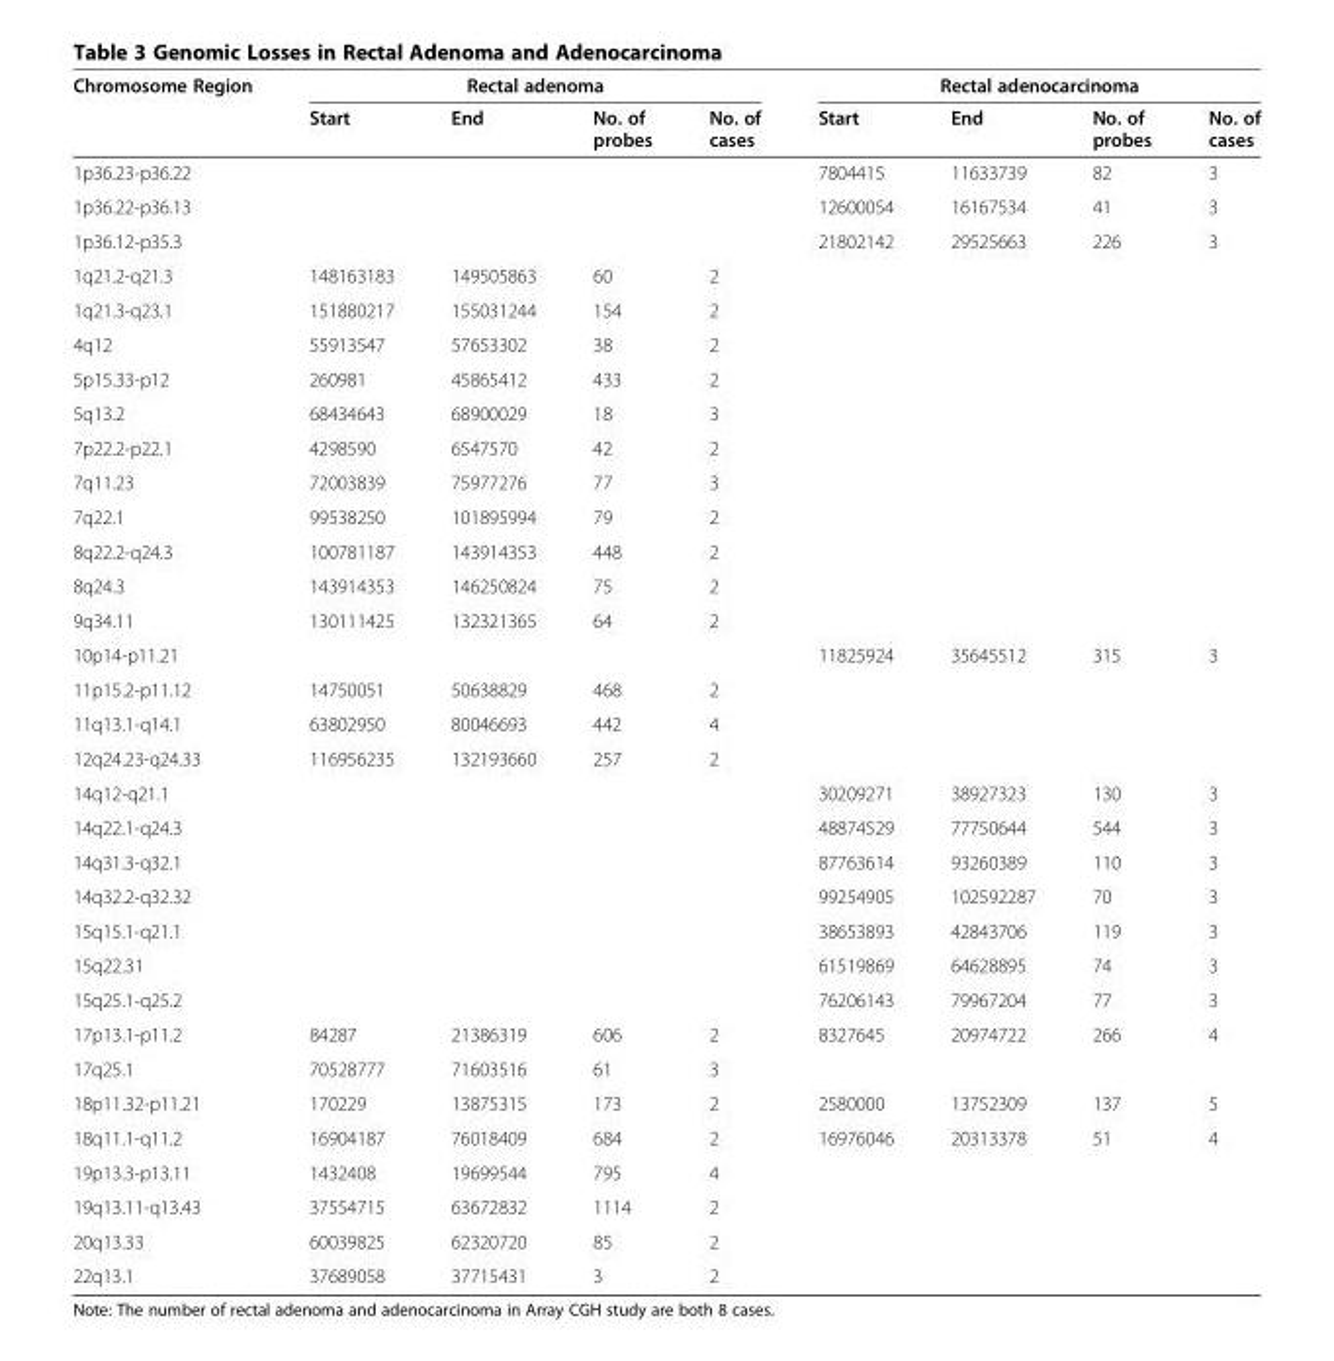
<table><thead><tr><td rowspan="2">Chromosome Region</td><td colspan="4">Rectal adenoma</td><td colspan="4">Rectal adenocarcinoma</td></tr><tr><td>Start</td><td>End</td><td>No. of probes</td><td>No. of cases</td><td>Start</td><td>End</td><td>No. of probes</td><td>No. of cases</td></tr></thead><tbody><tr><td>1p36.23-p36.22</td><td></td><td></td><td></td><td></td><td>7804415</td><td>11633739</td><td>82</td><td>3</td></tr><tr><td>1p36.22-p36.13</td><td></td><td></td><td></td><td></td><td>12600054</td><td>16167534</td><td>41</td><td>3</td></tr><tr><td>1p36.12-p35.3</td><td></td><td></td><td></td><td></td><td>21802142</td><td>29525663</td><td>226</td><td>3</td></tr><tr><td>1q21.2-q21.3</td><td>148163183</td><td>149505863</td><td>60</td><td>2</td><td></td><td></td><td></td><td></td></tr><tr><td>1q21.3-q23.1</td><td>151880217</td><td>155031244</td><td>154</td><td>2</td><td></td><td></td><td></td><td></td></tr><tr><td>4q12</td><td>55913547</td><td>57653302</td><td>38</td><td>2</td><td></td><td></td><td></td><td></td></tr><tr><td>5p15.33-p12</td><td>260981</td><td>45865412</td><td>433</td><td>2</td><td></td><td></td><td></td><td></td></tr><tr><td>5q13.2</td><td>68434643</td><td>68900029</td><td>18</td><td>3</td><td></td><td></td><td></td><td></td></tr><tr><td>7p22.2-p22.1</td><td>4298590</td><td>6547570</td><td>42</td><td>2</td><td></td><td></td><td></td><td></td></tr><tr><td>7q11.23</td><td>72003839</td><td>75977276</td><td>77</td><td>3</td><td></td><td></td><td></td><td></td></tr><tr><td>7q22.1</td><td>99538250</td><td>101895994</td><td>79</td><td>2</td><td></td><td></td><td></td><td></td></tr><tr><td>8q22.2-q24.3</td><td>100781187</td><td>143914353</td><td>448</td><td>2</td><td></td><td></td><td></td><td></td></tr><tr><td>8q24.3</td><td>143914353</td><td>146250824</td><td>75</td><td>2</td><td></td><td></td><td></td><td></td></tr><tr><td>9q34.11</td><td>130111425</td><td>132321365</td><td>64</td><td>2</td><td></td><td></td><td></td><td></td></tr><tr><td>10p14-p11.21</td><td></td><td></td><td></td><td></td><td>11825924</td><td>35645512</td><td>315</td><td>3</td></tr><tr><td>11p15.2-p11.12</td><td>14750051</td><td>50638829</td><td>468</td><td>2</td><td></td><td></td><td></td><td></td></tr><tr><td>11q13.1-q14.1</td><td>63802950</td><td>80046693</td><td>442</td><td>4</td><td></td><td></td><td></td><td></td></tr><tr><td>12q24.23-q24.33</td><td>116956235</td><td>132193660</td><td>257</td><td>2</td><td></td><td></td><td></td><td></td></tr><tr><td>14q12-q21.1</td><td></td><td></td><td></td><td></td><td>30209271</td><td>38927323</td><td>130</td><td>3</td></tr><tr><td>14q22.1-q24.3</td><td></td><td></td><td></td><td></td><td>48874529</td><td>77750644</td><td>544</td><td>3</td></tr><tr><td>14q31.3-q32.1</td><td></td><td></td><td></td><td></td><td>87763614</td><td>93260389</td><td>110</td><td>3</td></tr><tr><td>14q32.2-q32.32</td><td></td><td></td><td></td><td></td><td>99254905</td><td>102592287</td><td>70</td><td>3</td></tr><tr><td>15q15.1-q21.1</td><td></td><td></td><td></td><td></td><td>38653893</td><td>42843706</td><td>119</td><td>3</td></tr><tr><td>15q22.31</td><td></td><td></td><td></td><td></td><td>61519869</td><td>64628895</td><td>74</td><td>3</td></tr><tr><td>15q25.1-q25.2</td><td></td><td></td><td></td><td></td><td>76206143</td><td>79967204</td><td>77</td><td>3</td></tr><tr><td>17p13.1-p11.2</td><td>84287</td><td>21386319</td><td>606</td><td>2</td><td>8327645</td><td>20974722</td><td>266</td><td>4</td></tr><tr><td>17q25.1</td><td>70528777</td><td>71603516</td><td>61</td><td>3</td><td></td><td></td><td></td><td></td></tr><tr><td>18p11.32-p11.21</td><td>170229</td><td>13875315</td><td>173</td><td>2</td><td>2580000</td><td>13752309</td><td>137</td><td>5</td></tr><tr><td>18q11.1-q11.2</td><td>16904187</td><td>76018409</td><td>684</td><td>2</td><td>16976046</td><td>20313378</td><td>51</td><td>4</td></tr><tr><td>19p13.3-p13.11</td><td>1432408</td><td>19699544</td><td>795</td><td>4</td><td></td><td></td><td></td><td></td></tr><tr><td>19q13.11-q13.43</td><td>37554715</td><td>63672832</td><td>1114</td><td>2</td><td></td><td></td><td></td><td></td></tr><tr><td>20q13.33</td><td>60039825</td><td>62320720</td><td>85</td><td>2</td><td></td><td></td><td></td><td></td></tr><tr><td>22q13.1</td><td>37689058</td><td>37715431</td><td>3</td><td>2</td><td></td><td></td><td></td><td></td></tr></tbody></table>